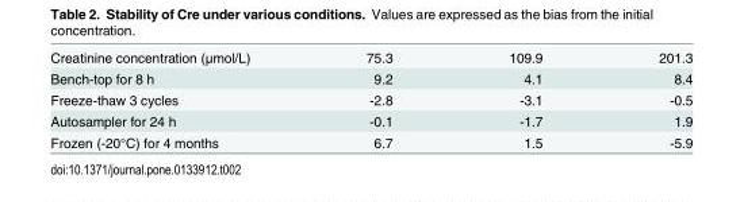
<table><tbody><tr><td>Creatinine concentration (μmol/L)</td><td>75.3</td><td>109.9</td><td>201.3</td></tr><tr><td>Bench-top for 8 h</td><td>9.2</td><td>4.1</td><td>8.4</td></tr><tr><td>Freeze-thaw 3 cycles</td><td>-2.8</td><td>-3.1</td><td>-0.5</td></tr><tr><td>Autosampler for 24 h</td><td>-0.1</td><td>-1.7</td><td>1.9</td></tr><tr><td>Frozen (-20°C) for 4 months</td><td>6.7</td><td>1.5</td><td>-5.9</td></tr></tbody></table>